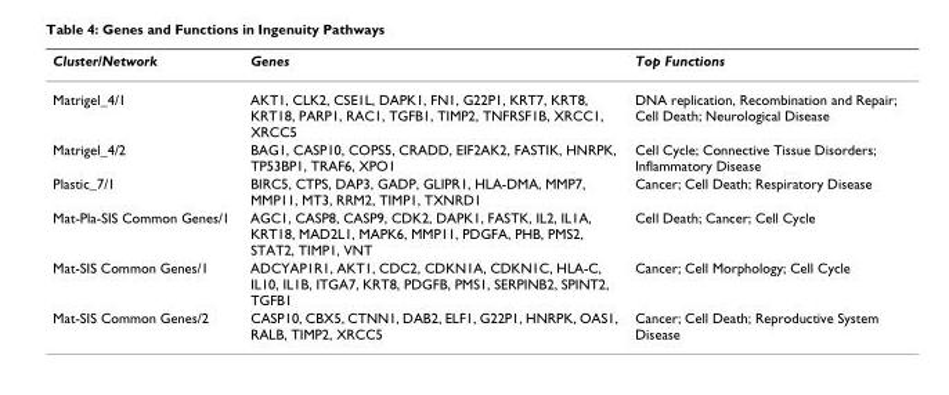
<table><thead><tr><td>Cluster/Network</td><td>Genes</td><td>Top Functions</td></tr></thead><tbody><tr><td>Matrigel_4/1</td><td>AKT1, CLK2, CSE1L, DAPK1, FN1, G22P1, KRT7, KRT8, KRT18, PARP1, RAC1, TGFB1, TIMP2, TNFRSF1B, XRCC1, XRCC5</td><td>DNA replication, Recombination and Repair; Cell Death; Neurological Disease</td></tr><tr><td>Matrigel_4/2</td><td>BAG1, CASP10, COPS5, CRADD, EIF2AK2, FASTIK, HNRPK, TP53BP1, TRAF6, XPO1</td><td>Cell Cycle; Connective Tissue Disorders; Inflammatory Disease</td></tr><tr><td>Plastic_7/1</td><td>BIRC5, CTPS, DAP3, GADP, GLIPR1, HLA-DMA, MMP7, MMP11, MT3, RRM2, TIMP1, TXNRD1</td><td>Cancer; Cell Death; Respiratory Disease</td></tr><tr><td>Mat-Pla-SIS Common Genes/1</td><td>AGC1, CASP8, CASP9, CDK2, DAPK1, FASTK, IL2, IL1A, KRT18, MAD2L1, MAPK6, MMP11, PDGFA, PHB, PMS2, STAT2, TIMP1, VNT</td><td>Cell Death; Cancer; Cell Cycle</td></tr><tr><td>Mat-SIS Common Genes/1</td><td>ADCYAP1R1, AKT1, CDC2, CDKN1A, CDKN1C, HLA-C, IL10, IL1B, ITGA7, KRT8, PDGFB, PMS1, SERPINB2, SPINT2, TGFB1</td><td>Cancer; Cell Morphology; Cell Cycle</td></tr><tr><td>Mat-SIS Common Genes/2</td><td>CASP10, CBX5, CTNN1, DAB2, ELF1, G22P1, HNRPK, OAS1, RALB, TIMP2, XRCC5</td><td>Cancer; Cell Death; Reproductive System Disease</td></tr></tbody></table>